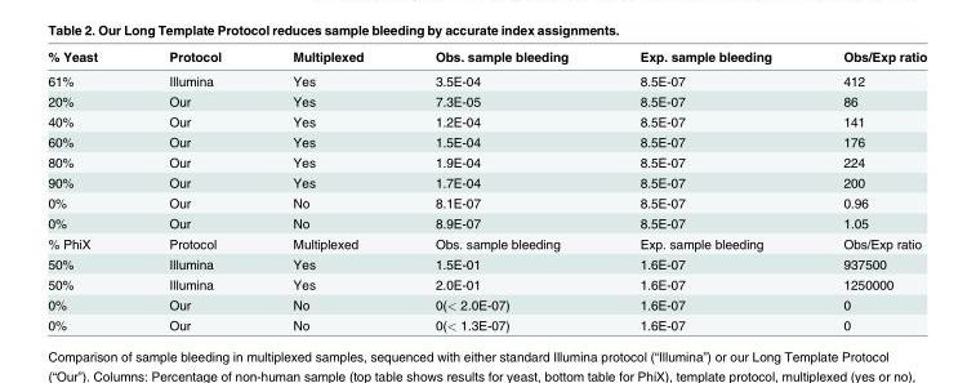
<table><thead><tr><td>% Yeast</td><td>Protocol</td><td>Multiplexed</td><td>Obs. sample bleeding</td><td>Exp. sample bleeding</td><td>Obs/Exp ratio</td></tr></thead><tbody><tr><td>61%</td><td>Illumina</td><td>Yes</td><td>3.5E-04</td><td>8.5E-07</td><td>412</td></tr><tr><td>20%</td><td>Our</td><td>Yes</td><td>7.3E-05</td><td>8.5E-07</td><td>86</td></tr><tr><td>40%</td><td>Our</td><td>Yes</td><td>1.2E-04</td><td>8.5E-07</td><td>141</td></tr><tr><td>60%</td><td>Our</td><td>Yes</td><td>1.5E-04</td><td>8.5E-07</td><td>176</td></tr><tr><td>80%</td><td>Our</td><td>Yes</td><td>1.9E-04</td><td>8.5E-07</td><td>224</td></tr><tr><td>90%</td><td>Our</td><td>Yes</td><td>1.7E-04</td><td>8.5E-07</td><td>200</td></tr><tr><td>0%</td><td>Our</td><td>No</td><td>8.1E-07</td><td>8.5E-07</td><td>0.96</td></tr><tr><td>0%</td><td>Our</td><td>No</td><td>8.9E-07</td><td>8.5E-07</td><td>1.05</td></tr><tr><td>% PhiX</td><td>Protocol</td><td>Multiplexed</td><td>Obs. sample bleeding</td><td>Exp. sample bleeding</td><td>Obs/Exp ratio</td></tr><tr><td>50%</td><td>Illumina</td><td>Yes</td><td>1.5E-01</td><td>1.6E-07</td><td>937500</td></tr><tr><td>50%</td><td>Illumina</td><td>Yes</td><td>2.0E-01</td><td>1.6E-07</td><td>1250000</td></tr><tr><td>0%</td><td>Our</td><td>No</td><td>0(&lt; 2.0E-07)</td><td>1.6E-07</td><td>0</td></tr><tr><td>0%</td><td>Our</td><td>No</td><td>0(&lt; 1.3E-07)</td><td>1.6E-07</td><td>0</td></tr></tbody></table>